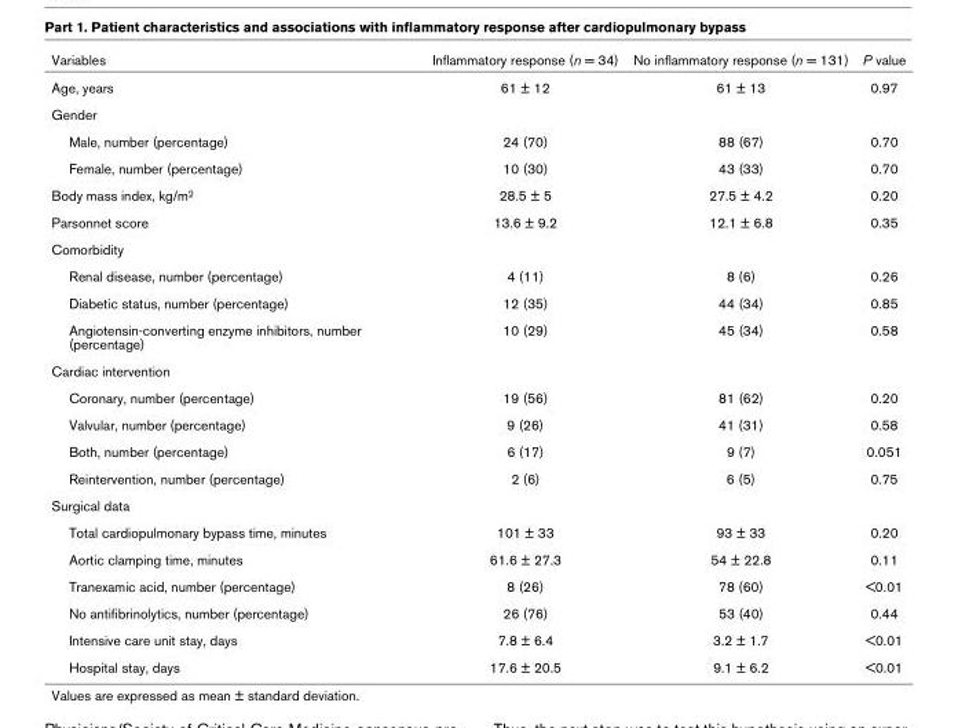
<table><thead><tr><td>Variables</td><td>Inflammatory response (n = 34)</td><td>No inflammatory response (n = 131)</td><td>P value</td></tr></thead><tbody><tr><td>Age, years</td><td>61 ± 12</td><td>61 ± 13</td><td>0.97</td></tr><tr><td colspan="4">Gender</td></tr><tr><td>Male, number (percentage)</td><td>24 (70)</td><td>88 (67)</td><td>0.70</td></tr><tr><td>Female, number (percentage)</td><td>10 (30)</td><td>43 (33)</td><td>0.70</td></tr><tr><td>Body mass index, kg/m<sup>2</sup></td><td>28.5 ± 5</td><td>27.5 ± 4.2</td><td>0.20</td></tr><tr><td>Parsonnet score</td><td>13.6 ± 9.2</td><td>12.1 ± 6.8</td><td>0.35</td></tr><tr><td colspan="4">Comorbidity</td></tr><tr><td>Renal disease, number (percentage)</td><td>4 (11)</td><td>8 (6)</td><td>0.26</td></tr><tr><td>Diabetic status, number (percentage)</td><td>12 (35)</td><td>44 (34)</td><td>0.85</td></tr><tr><td>Angiotensin-converting enzyme inhibitors, number (percentage)</td><td>10 (29)</td><td>45 (34)</td><td>0.58</td></tr><tr><td colspan="4">Cardiac intervention</td></tr><tr><td>Coronary, number (percentage)</td><td>19 (56)</td><td>81 (62)</td><td>0.20</td></tr><tr><td>Valvular, number (percentage)</td><td>9 (26)</td><td>41 (31)</td><td>0.58</td></tr><tr><td>Both, number (percentage)</td><td>6 (17)</td><td>9 (7)</td><td>0.051</td></tr><tr><td>Reintervention, number (percentage)</td><td>2 (6)</td><td>6 (5)</td><td>0.75</td></tr><tr><td colspan="4">Surgical data</td></tr><tr><td>Total cardiopulmonary bypass time, minutes</td><td>101 ± 33</td><td>93 ± 33</td><td>0.20</td></tr><tr><td>Aortic clamping time, minutes</td><td>61.6 ± 27.3</td><td>54 ± 22.8</td><td>0.11</td></tr><tr><td>Tranexamic acid, number (percentage)</td><td>8 (26)</td><td>78 (60)</td><td>&lt;0.01</td></tr><tr><td>No antifibrinolytics, number (percentage)</td><td>26 (76)</td><td>53 (40)</td><td>0.44</td></tr><tr><td>Intensive care unit stay, days</td><td>7.8 ± 6.4</td><td>3.2 ± 1.7</td><td>&lt;0.01</td></tr><tr><td>Hospital stay, days</td><td>17.6 ± 20.5</td><td>9.1 ± 6.2</td><td>&lt;0.01</td></tr></tbody></table>